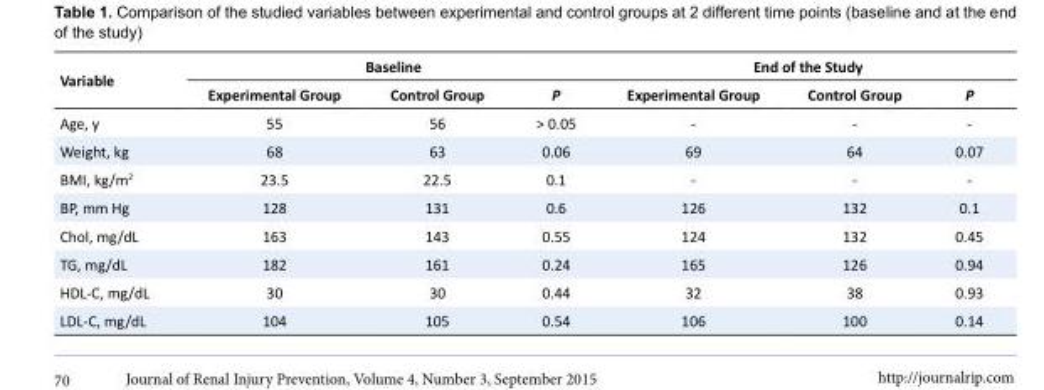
<table><tbody><tr><td rowspan="2">Variable</td><td colspan="3">Baseline</td><td colspan="3">End of the Study</td></tr><tr><td>Experimental Group</td><td>Control Group</td><td>P</td><td>Experimental Group</td><td>Control Group</td><td>P</td></tr><tr><td>Age, y</td><td>55</td><td>56</td><td>&gt; 0.05</td><td>-</td><td>-</td><td>-</td></tr><tr><td>Weight, kg</td><td>68</td><td>63</td><td>0.06</td><td>69</td><td>64</td><td>0.07</td></tr><tr><td>BMI, kg/m<sup>2</sup></td><td>23.5</td><td>22.5</td><td>0.1</td><td>-</td><td>-</td><td>-</td></tr><tr><td>BP, mm Hg</td><td>128</td><td>131</td><td>0.6</td><td>126</td><td>132</td><td>0.1</td></tr><tr><td>Chol, mg/dL</td><td>163</td><td>143</td><td>0.55</td><td>124</td><td>132</td><td>0.45</td></tr><tr><td>TG, mg/dL</td><td>182</td><td>161</td><td>0.24</td><td>165</td><td>126</td><td>0.94</td></tr><tr><td>HDL-C, mg/dL</td><td>30</td><td>30</td><td>0.44</td><td>32</td><td>38</td><td>0.93</td></tr><tr><td>LDL-C, mg/dL</td><td>104</td><td>105</td><td>0.54</td><td>106</td><td>100</td><td>0.14</td></tr></tbody></table>